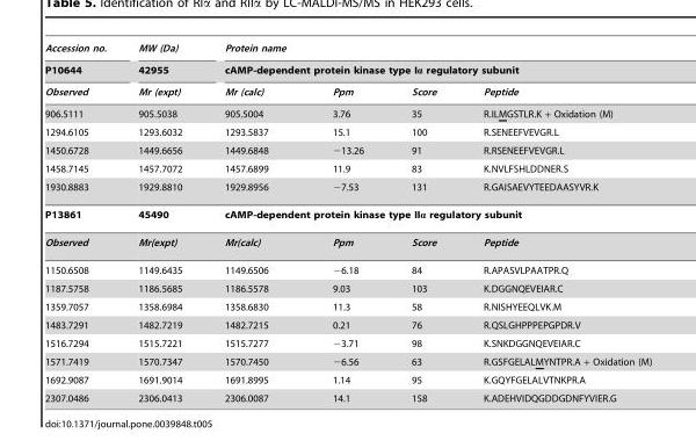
<table><thead><tr><td rowspan="3">Accession no. P10644 Observed</td><td rowspan="3">MW (Da) 42955 Mr (expt)</td><td rowspan="2" colspan="4">Protein name cAMP-dependent protein kinase type Iα regulatory subunit</td></tr><tr></tr><tr><td>Mr (calc)</td><td>Ppm</td><td>Score</td><td>Peptide</td></tr></thead><tbody><tr><td>906.5111</td><td>905.5038</td><td>905.5004</td><td>3.76</td><td>35</td><td>R.ILMGSTLR.K + Oxidation (M)</td></tr><tr><td>1294.6105</td><td>1293.6032</td><td>1293.5837</td><td>15.1</td><td>100</td><td>R.SENEEFVEVGR.L</td></tr><tr><td>1450.6728</td><td>1449.6656</td><td>1449.6848</td><td>−13.26</td><td>91</td><td>R.RSENEEFVEVGR.L</td></tr><tr><td>1458.7145</td><td>1457.7072</td><td>1457.6899</td><td>11.9</td><td>83</td><td>K.NVLFSHLDDNER.S</td></tr><tr><td>1930.8883</td><td>1929.8810</td><td>1929.8956</td><td>−7.53</td><td>131</td><td>R.GAISAEVYTEEDAASYVR.K</td></tr><tr><td>P13861</td><td>45490</td><td colspan="4">cAMP-dependent protein kinase type IIα regulatory subunit</td></tr><tr><td>Observed</td><td>Mr(expt)</td><td>Mr(calc)</td><td>Ppm</td><td>Score</td><td>Peptide</td></tr><tr><td>1150.6508</td><td>1149.6435</td><td>1149.6506</td><td>−6.18</td><td>84</td><td>R.APASVLPAATPR.Q</td></tr><tr><td>1187.5758</td><td>1186.5685</td><td>1186.5578</td><td>9.03</td><td>103</td><td>K.DGGNQEVEIAR.C</td></tr><tr><td>1359.7057</td><td>1358.6984</td><td>1358.6830</td><td>11.3</td><td>58</td><td>R.NISHYEEQLVK.M</td></tr><tr><td>1483.7291</td><td>1482.7219</td><td>1482.7215</td><td>0.21</td><td>76</td><td>R.QSLGHPPPEPGPDR.V</td></tr><tr><td>1516.7294</td><td>1515.7221</td><td>1515.7277</td><td>−3.71</td><td>98</td><td>K.SNKDGGNQEVEIAR.C</td></tr><tr><td>1571.7419</td><td>1570.7347</td><td>1570.7450</td><td>−6.56</td><td>63</td><td>R.GSFGELALMYNTPR.A + Oxidation (M)</td></tr><tr><td>1692.9087</td><td>1691.9014</td><td>1691.8995</td><td>1.14</td><td>95</td><td>K.GQYFGELALVTNKPR.A</td></tr><tr><td>2307.0486</td><td>2306.0413</td><td>2306.0087</td><td>14.1</td><td>158</td><td>K.ADEHVIDQGDDGDNFYVIER.G</td></tr></tbody></table>